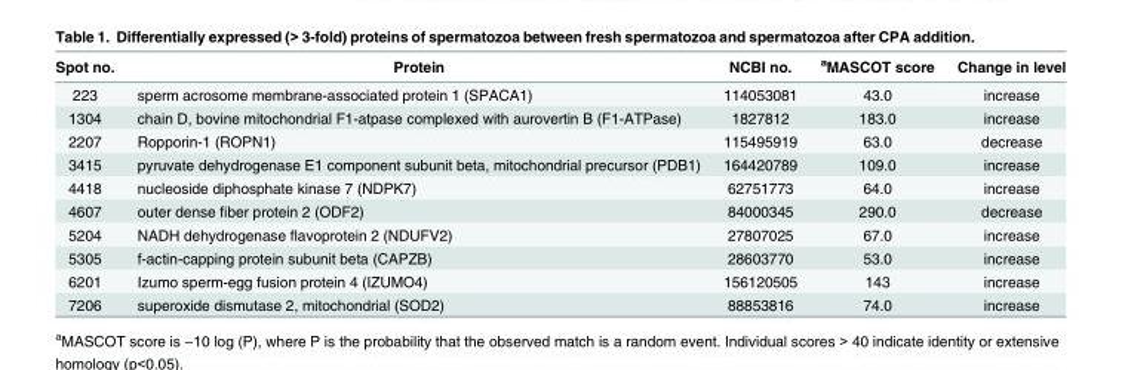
<table><thead><tr><td>Spot no.</td><td>Protein</td><td>NCBI no.</td><td><sup>a</sup>MASCOT score</td><td>Change in level</td></tr></thead><tbody><tr><td>223</td><td>sperm acrosome membrane-associated protein 1 (SPACA1)</td><td>114053081</td><td>43.0</td><td>increase</td></tr><tr><td>1304</td><td>chain D, bovine mitochondrial F1-atpase complexed with aurovertin B (F1-ATPase)</td><td>1827812</td><td>183.0</td><td>increase</td></tr><tr><td>2207</td><td>Ropporin-1 (ROPN1)</td><td>115495919</td><td>63.0</td><td>decrease</td></tr><tr><td>3415</td><td>pyruvate dehydrogenase E1 component subunit beta, mitochondrial precursor (PDB1)</td><td>164420789</td><td>109.0</td><td>increase</td></tr><tr><td>4418</td><td>nucleoside diphosphate kinase 7 (NDPK7)</td><td>62751773</td><td>64.0</td><td>increase</td></tr><tr><td>4607</td><td>outer dense fiber protein 2 (ODF2)</td><td>84000345</td><td>290.0</td><td>decrease</td></tr><tr><td>5204</td><td>NADH dehydrogenase flavoprotein 2 (NDUFV2)</td><td>27807025</td><td>67.0</td><td>increase</td></tr><tr><td>5305</td><td>f-actin-capping protein subunit beta (CAPZB)</td><td>28603770</td><td>53.0</td><td>increase</td></tr><tr><td>6201</td><td>Izumo sperm-egg fusion protein 4 (IZUMO4)</td><td>156120505</td><td>143</td><td>increase</td></tr><tr><td>7206</td><td>superoxide dismutase 2, mitochondrial (SOD2)</td><td>88853816</td><td>74.0</td><td>increase</td></tr></tbody></table>